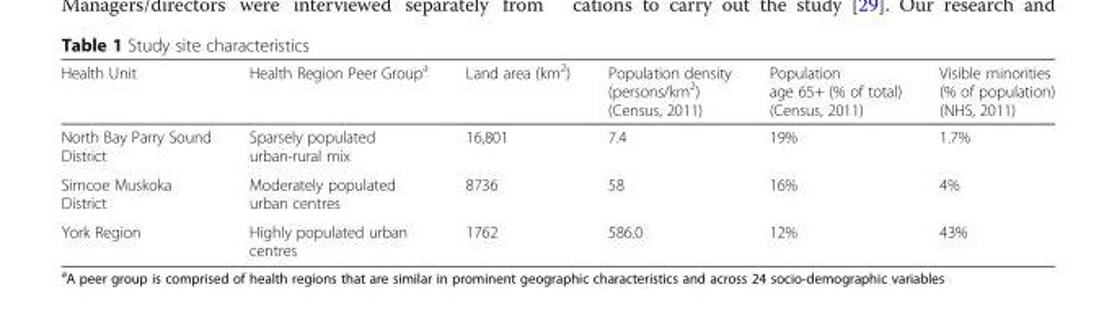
<table><thead><tr><td>Health Unit</td><td>Health Region Peer Group<sup>a</sup></td><td>Land area (km<sup>2</sup>)</td><td>Population density (persons/km<sup>2</sup>) (Census, 2011)</td><td>Population age 65+ (% of total) (Census, 2011)</td><td>Visible minorities (% of population) (NHS, 2011)</td></tr></thead><tbody><tr><td>North Bay Parry Sound District</td><td>Sparsely populated urban-rural mix</td><td>16,801</td><td>7.4</td><td>19%</td><td>1.7%</td></tr><tr><td>Simcoe Muskoka District</td><td>Moderately populated urban centres</td><td>8736</td><td>58</td><td>16%</td><td>4%</td></tr><tr><td>York Region</td><td>Highly populated urban centres</td><td>1762</td><td>586.0</td><td>12%</td><td>43%</td></tr></tbody></table>